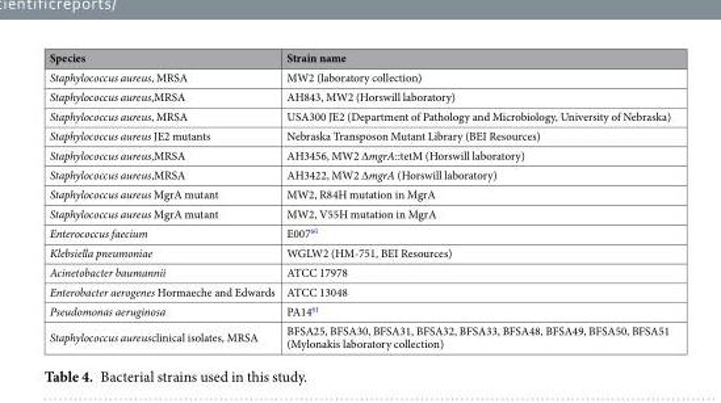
<table><thead><tr><td>Species</td><td>Strain name</td></tr></thead><tbody><tr><td>Staphylococcus aureus, MRSA</td><td>MW2 (laboratory collection)</td></tr><tr><td>Staphylococcus aureus,MRSA</td><td>AH843, MW2 (Horswill laboratory)</td></tr><tr><td>Staphylococcus aureus, MRSA</td><td>USA300 JE2 (Department of Pathology and Microbiology, University of Nebraska)</td></tr><tr><td>Staphylococcus aureus JE2 mutants</td><td>Nebraska Transposon Mutant Library (BEI Resources)</td></tr><tr><td>Staphylococcus aureus,MRSA</td><td>AH3456, MW2 ∆mgrA::tetM (Horswill laboratory)</td></tr><tr><td>Staphylococcus aureus,MRSA</td><td>AH3422, MW2 ∆mgrA (Horswill laboratory)</td></tr><tr><td>Staphylococcus aureus MgrA mutant</td><td>MW2, R84H mutation in MgrA</td></tr><tr><td>Staphylococcus aureus MgrA mutant</td><td>MW2, V55H mutation in MgrA</td></tr><tr><td>Enterococcus faecium</td><td>E007<sup>60</sup></td></tr><tr><td>Klebsiella pneumoniae</td><td>WGLW2 (HM-751, BEI Resources)</td></tr><tr><td>Acinetobacter baumannii</td><td>ATCC 17978</td></tr><tr><td>Enterobacter aerogenes Hormaeche and Edwards</td><td>ATCC 13048</td></tr><tr><td>Pseudomonas aeruginosa</td><td>PA14<sup>61</sup></td></tr><tr><td>Staphylococcus aureusclinical isolates, MRSA</td><td>BFSA25, BFSA30, BFSA31, BFSA32, BFSA33, BFSA48, BFSA49, BFSA50, BFSA51 (Mylonakis laboratory collection)</td></tr></tbody></table>